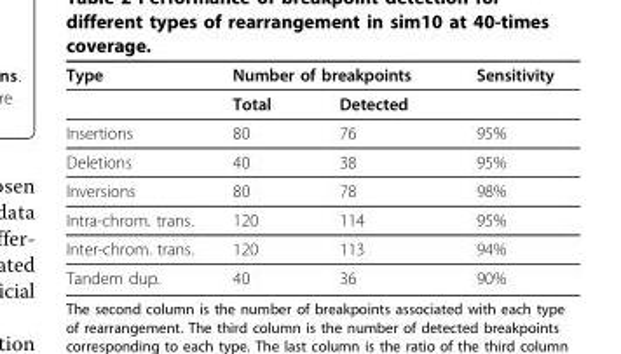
<table><thead><tr><td rowspan="2">Type</td><td colspan="2">Number of breakpoints</td><td rowspan="2">Sensitivity</td></tr><tr><td>Total</td><td>Detected</td></tr></thead><tbody><tr><td>Insertions</td><td>80</td><td>76</td><td>95%</td></tr><tr><td>Deletions</td><td>40</td><td>38</td><td>95%</td></tr><tr><td>Inversions</td><td>80</td><td>78</td><td>98%</td></tr><tr><td>Intra-chrom. trans.</td><td>120</td><td>114</td><td>95%</td></tr><tr><td>Inter-chrom. trans.</td><td>120</td><td>113</td><td>94%</td></tr><tr><td>Tandem dup.</td><td>40</td><td>36</td><td>90%</td></tr></tbody></table>